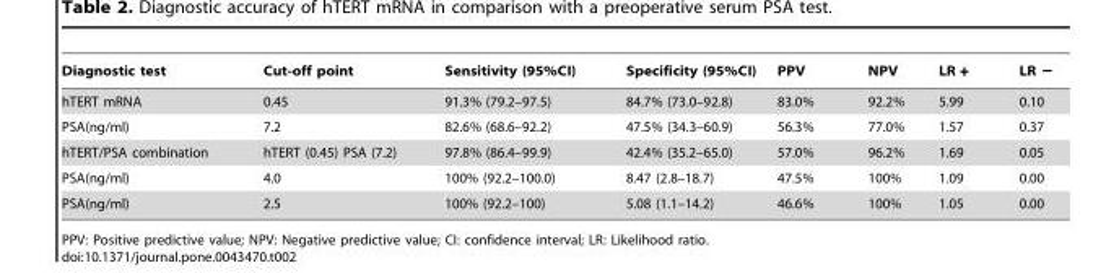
<table><thead><tr><td>Diagnostic test</td><td>Cut-off point</td><td>Sensitivity (95%CI)</td><td>Specificity (95%CI)</td><td>PPV</td><td>NPV</td><td>LR +</td><td>LR</td></tr></thead><tbody><tr><td>hTERT mRNA</td><td>0.45</td><td>91.3% (79.2–97.5)</td><td>84.7% (73.0–92.8)</td><td>83.0%</td><td>92.2%</td><td>5.99</td><td>0.10</td></tr><tr><td>PSA(ng/ml)</td><td>7.2</td><td>82.6% (68.6–92.2)</td><td>47.5% (34.3–60.9)</td><td>56.3%</td><td>77.0%</td><td>1.57</td><td>0.37</td></tr><tr><td>hTERT/PSA combination</td><td>hTERT (0.45) PSA (7.2)</td><td>97.8% (86.4–99.9)</td><td>42.4% (35.2–65.0)</td><td>57.0%</td><td>96.2%</td><td>1.69</td><td>0.05</td></tr><tr><td>PSA(ng/ml)</td><td>4.0</td><td>100% (92.2–100.0)</td><td>8.47 (2.8–18.7)</td><td>47.5%</td><td>100%</td><td>1.09</td><td>0.00</td></tr><tr><td>PSA(ng/ml)</td><td>2.5</td><td>100% (92.2–100)</td><td>5.08 (1.1–14.2)</td><td>46.6%</td><td>100%</td><td>1.05</td><td>0.00</td></tr></tbody></table>